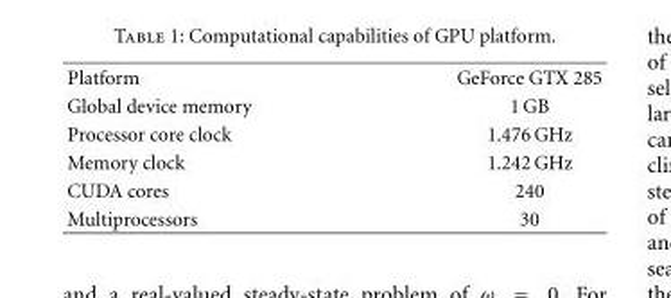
<table><tbody><tr><td>Platform</td><td>GeForce GTX 285</td></tr><tr><td>Global device memory</td><td>1 GB</td></tr><tr><td>Processor core clock</td><td>1.476 GHz</td></tr><tr><td>Memory clock</td><td>1.242 GHz</td></tr><tr><td>CUDA cores</td><td>240</td></tr><tr><td>Multiprocessors</td><td>30</td></tr></tbody></table>